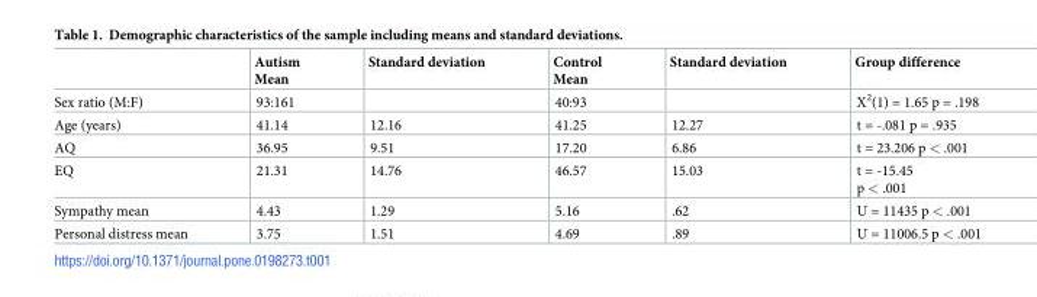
<table><thead><tr><td></td><td>Autism Mean</td><td>Standard deviation</td><td>Control Mean</td><td>Standard deviation</td><td>Group difference</td></tr></thead><tbody><tr><td>Sex ratio (M:F)</td><td>93:161</td><td></td><td>40:93</td><td></td><td>X<sup>2</sup>(1) = 1.65 p = .198</td></tr><tr><td>Age (years)</td><td>41.14</td><td>12.16</td><td>41.25</td><td>12.27</td><td>t = -.081 p = .935</td></tr><tr><td>AQ</td><td>36.95</td><td>9.51</td><td>17.20</td><td>6.86</td><td>t = 23.206 p &lt; .001</td></tr><tr><td>EQ</td><td>21.31</td><td>14.76</td><td>46.57</td><td>15.03</td><td>t = -15.45 p &lt; .001</td></tr><tr><td>Sympathy mean</td><td>4.43</td><td>1.29</td><td>5.16</td><td>.62</td><td>U = 11435 p &lt; .001</td></tr><tr><td>Personal distress mean</td><td>3.75</td><td>1.51</td><td>4.69</td><td>.89</td><td>U = 11006.5 p &lt; .001</td></tr></tbody></table>